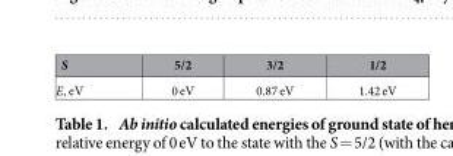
<table><thead><tr><td>S</td><td>5/2</td><td>3/2</td><td>1/2</td></tr></thead><tbody><tr><td>E, eV</td><td>0 eV</td><td>0.87 eV</td><td>1.42 eV</td></tr></tbody></table>